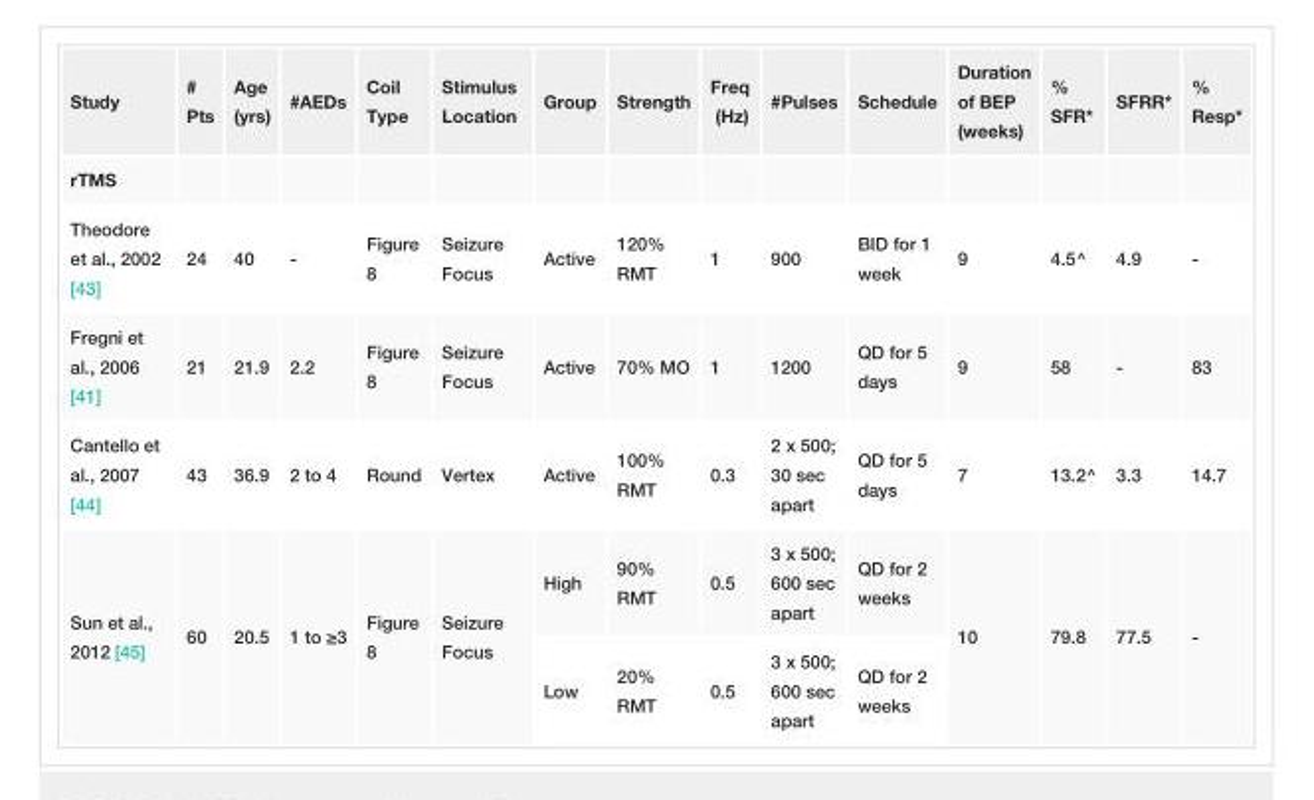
<table><tbody><tr><td>Study</td><td># Pts</td><td>Age (yrs)</td><td>#AEDs</td><td>Coil Type</td><td>Stimulus Location</td><td>Group</td><td>Strength</td><td>Freq (Hz)</td><td>#Pulses</td><td>Schedule</td><td>Duration of BEP (weeks)</td><td>% SFR*</td><td>SFRR*</td><td>% Resp*</td></tr><tr><td colspan="15">rTMS</td></tr><tr><td>Theodore et al., 2002 [43]</td><td>24</td><td>40</td><td>-</td><td>Figure 8</td><td>Seizure Focus</td><td>Active</td><td>120% RMT</td><td>1</td><td>900</td><td>BID for 1 week</td><td>9</td><td>4.5^</td><td>4.9</td><td>-</td></tr><tr><td>Fregni et al., 2006 [41]</td><td>21</td><td>21.9</td><td>2.2</td><td>Figure 8</td><td>Seizure Focus</td><td>Active</td><td>70% MO</td><td>1</td><td>1200</td><td>QD for 5 days</td><td>9</td><td>58</td><td>-</td><td>83</td></tr><tr><td>Cantello et al., 2007 [44]</td><td>43</td><td>36.9</td><td>2 to 4</td><td>Round</td><td>Vertex</td><td>Active</td><td>100% RMT</td><td>0.3</td><td>2 x 500; 30 sec apart</td><td>QD for 5 days</td><td>7</td><td>13.2^</td><td>3.3</td><td>14.7</td></tr><tr><td rowspan="2">Sun et al., 2012 [45]</td><td rowspan="2">60</td><td rowspan="2">20.5</td><td rowspan="2">1 to ≥3</td><td rowspan="2">Figure 8</td><td rowspan="2">Seizure Focus</td><td>High</td><td>90% RMT</td><td>0.5</td><td>3 x 500; 600 sec apart</td><td>QD for 2 weeks</td><td rowspan="2">10</td><td rowspan="2">79.8</td><td rowspan="2">77.5</td><td rowspan="2">-</td></tr><tr><td>Low</td><td>20% RMT</td><td>0.5</td><td>3 x 500; 600 sec apart</td><td>QD for 2 weeks</td></tr></tbody></table>